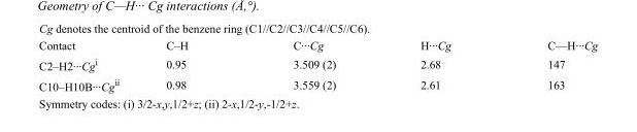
<table><tbody><tr><td>Contact</td><td>C–H</td><td>C···Cg</td><td>H···Cg</td><td>C—H···Cg</td></tr><tr><td>C2–H2···Cg<sup>i</sup></td><td>0.95</td><td>3.509 (2)</td><td>2.68</td><td>147</td></tr><tr><td>C10–H10B···Cg<sup>ii</sup></td><td>0.98</td><td>3.559 (2)</td><td>2.61</td><td>163</td></tr></tbody></table>